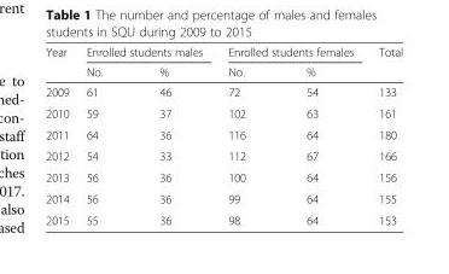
<table><thead><tr><td rowspan="2">Year</td><td colspan="2">Enrolled students males</td><td colspan="2">Enrolled students females</td><td rowspan="2">Total</td></tr><tr><td>No.</td><td>%</td><td>No.</td><td>%</td></tr></thead><tbody><tr><td>2009</td><td>61</td><td>46</td><td>72</td><td>54</td><td>133</td></tr><tr><td>2010</td><td>59</td><td>37</td><td>102</td><td>63</td><td>161</td></tr><tr><td>2011</td><td>64</td><td>36</td><td>116</td><td>64</td><td>180</td></tr><tr><td>2012</td><td>54</td><td>33</td><td>112</td><td>67</td><td>166</td></tr><tr><td>2013</td><td>56</td><td>36</td><td>100</td><td>64</td><td>156</td></tr><tr><td>2014</td><td>56</td><td>36</td><td>99</td><td>64</td><td>155</td></tr><tr><td>2015</td><td>55</td><td>36</td><td>98</td><td>64</td><td>153</td></tr></tbody></table>